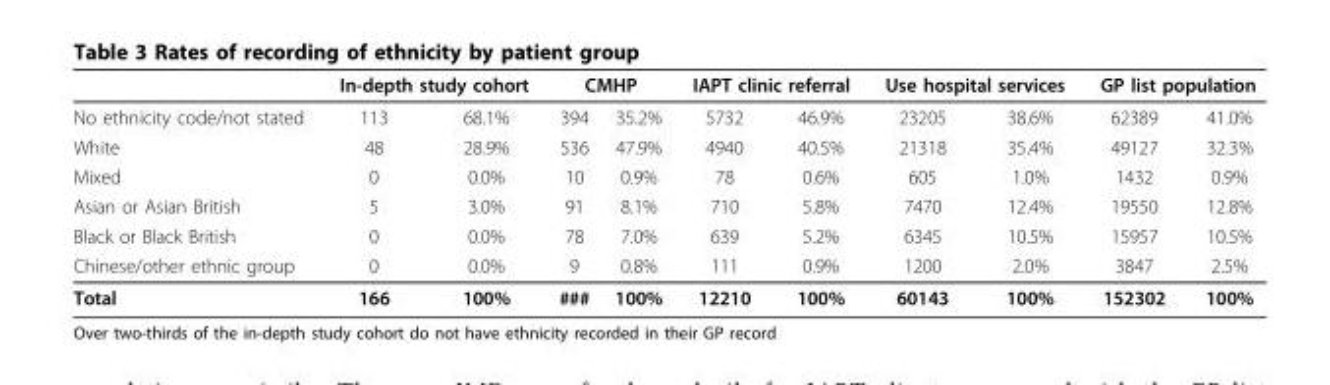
<table><thead><tr><td rowspan="2">No ethnicity code/not stated</td><td colspan="2">In-depth study cohort</td><td colspan="2">CMHP</td><td colspan="2">IAPT clinic referral</td><td colspan="2">Use hospital services</td><td colspan="2">GP list population</td></tr><tr><td>113</td><td>68.1%</td><td>394</td><td>35.2%</td><td>5732</td><td>46.9%</td><td>23205</td><td>38.6%</td><td>62389</td><td>41.0%</td></tr></thead><tbody><tr><td>White</td><td>48</td><td>28.9%</td><td>536</td><td>47.9%</td><td>4940</td><td>40.5%</td><td>21318</td><td>35.4%</td><td>49127</td><td>32.3%</td></tr><tr><td>Mixed</td><td>0</td><td>0.0%</td><td>10</td><td>0.9%</td><td>78</td><td>0.6%</td><td>605</td><td>1.0%</td><td>1432</td><td>0.9%</td></tr><tr><td>Asian or Asian British</td><td>5</td><td>3.0%</td><td>91</td><td>8.1%</td><td>710</td><td>5.8%</td><td>7470</td><td>12.4%</td><td>19550</td><td>12.8%</td></tr><tr><td>Black or Black British</td><td>0</td><td>0.0%</td><td>78</td><td>7.0%</td><td>639</td><td>5.2%</td><td>6345</td><td>10.5%</td><td>15957</td><td>10.5%</td></tr><tr><td>Chinese/other ethnic group</td><td>0</td><td>0.0%</td><td>9</td><td>0.8%</td><td>111</td><td>0.9%</td><td>1200</td><td>2.0%</td><td>3847</td><td>2.5%</td></tr><tr><td>Total</td><td>166</td><td>100%</td><td>###</td><td>100%</td><td>12210</td><td>100%</td><td>60143</td><td>100%</td><td>152302</td><td>100%</td></tr></tbody></table>